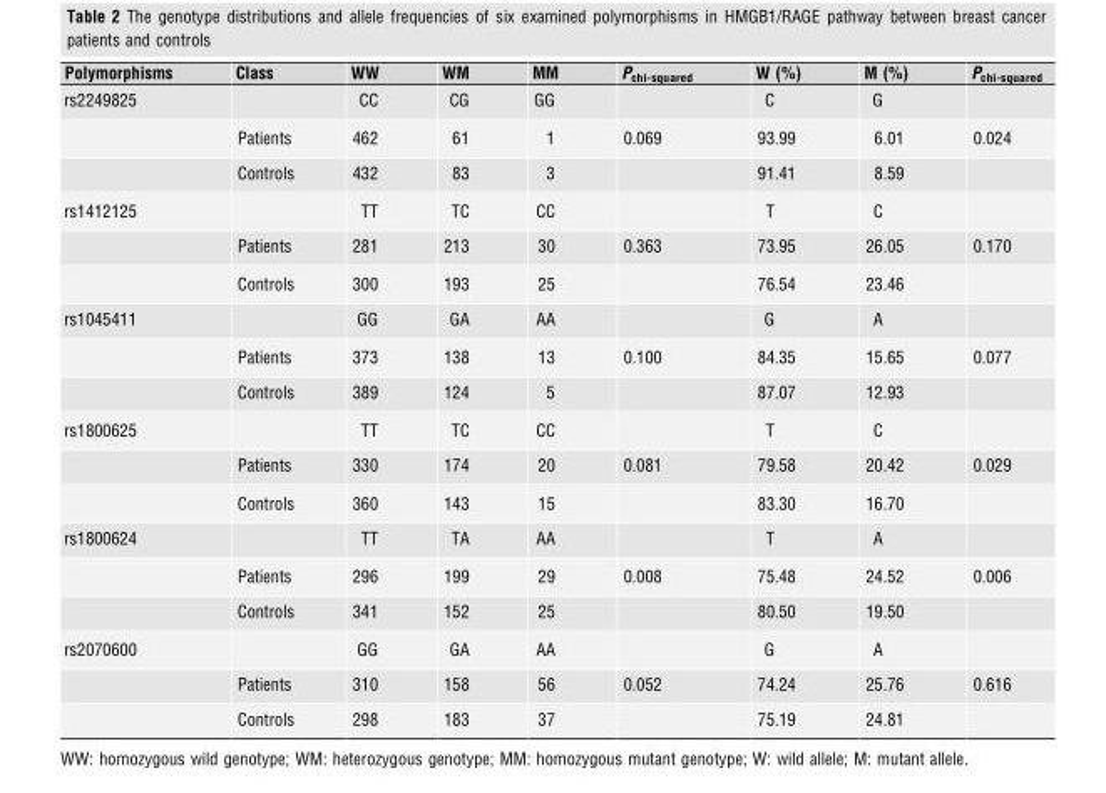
<table><thead><tr><td>Polymorphisms</td><td>Class</td><td>WW</td><td>WM</td><td>MM</td><td>P<sub>chi-squared</sub></td><td>W (%)</td><td>M (%)</td><td>P<sub>chi-squared</sub></td></tr></thead><tbody><tr><td rowspan="3">rs2249825</td><td></td><td>CC</td><td>CG</td><td>GG</td><td></td><td>C</td><td>G</td><td></td></tr><tr><td>Patients</td><td>462</td><td>61</td><td>1</td><td>0.069</td><td>93.99</td><td>6.01</td><td>0.024</td></tr><tr><td>Controls</td><td>432</td><td>83</td><td>3</td><td></td><td>91.41</td><td>8.59</td><td></td></tr><tr><td rowspan="3">rs1412125</td><td></td><td>TT</td><td>TC</td><td>CC</td><td></td><td>T</td><td>C</td><td></td></tr><tr><td>Patients</td><td>281</td><td>213</td><td>30</td><td>0.363</td><td>73.95</td><td>26.05</td><td>0.170</td></tr><tr><td>Controls</td><td>300</td><td>193</td><td>25</td><td></td><td>76.54</td><td>23.46</td><td></td></tr><tr><td rowspan="3">rs1045411</td><td></td><td>GG</td><td>GA</td><td>AA</td><td></td><td>G</td><td>A</td><td></td></tr><tr><td>Patients</td><td>373</td><td>138</td><td>13</td><td>0.100</td><td>84.35</td><td>15.65</td><td>0.077</td></tr><tr><td>Controls</td><td>389</td><td>124</td><td>5</td><td></td><td>87.07</td><td>12.93</td><td></td></tr><tr><td rowspan="3">rs1800625</td><td></td><td>TT</td><td>TC</td><td>CC</td><td></td><td>T</td><td>C</td><td></td></tr><tr><td>Patients</td><td>330</td><td>174</td><td>20</td><td>0.081</td><td>79.58</td><td>20.42</td><td>0.029</td></tr><tr><td>Controls</td><td>360</td><td>143</td><td>15</td><td></td><td>83.30</td><td>16.70</td><td></td></tr><tr><td rowspan="3">rs1800624</td><td></td><td>TT</td><td>TA</td><td>AA</td><td></td><td>T</td><td>A</td><td></td></tr><tr><td>Patients</td><td>296</td><td>199</td><td>29</td><td>0.008</td><td>75.48</td><td>24.52</td><td>0.006</td></tr><tr><td>Controls</td><td>341</td><td>152</td><td>25</td><td></td><td>80.50</td><td>19.50</td><td></td></tr><tr><td rowspan="3">rs2070600</td><td></td><td>GG</td><td>GA</td><td>AA</td><td></td><td>G</td><td>A</td><td></td></tr><tr><td>Patients</td><td>310</td><td>158</td><td>56</td><td>0.052</td><td>74.24</td><td>25.76</td><td>0.616</td></tr><tr><td>Controls</td><td>298</td><td>183</td><td>37</td><td></td><td>75.19</td><td>24.81</td><td></td></tr></tbody></table>